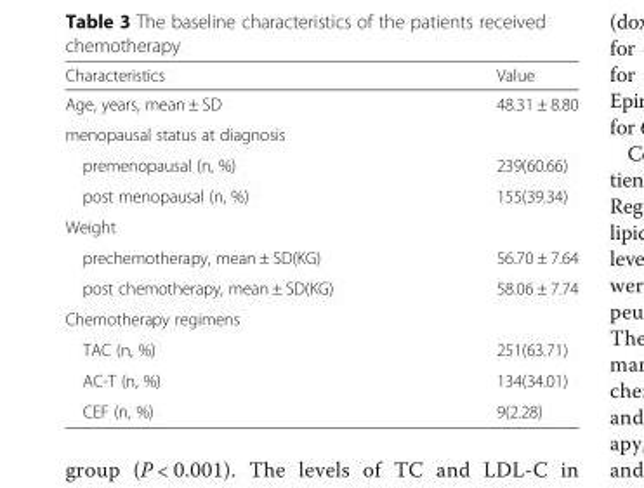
<table><thead><tr><td>Characteristics</td><td>Value</td></tr></thead><tbody><tr><td>Age, years, mean ± SD</td><td>48.31 ± 8.80</td></tr><tr><td colspan="2">menopausal status at diagnosis</td></tr><tr><td>premenopausal (n, %)</td><td>239(60.66)</td></tr><tr><td>post menopausal (n, %)</td><td>155(39.34)</td></tr><tr><td colspan="2">Weight</td></tr><tr><td>prechemotherapy, mean ± SD(KG)</td><td>56.70 ± 7.64</td></tr><tr><td>post chemotherapy, mean ± SD(KG)</td><td>58.06 ± 7.74</td></tr><tr><td colspan="2">Chemotherapy regimens</td></tr><tr><td>TAC (n, %)</td><td>251(63.71)</td></tr><tr><td>AC-T (n, %)</td><td>134(34.01)</td></tr><tr><td>CEF (n, %)</td><td>9(2.28)</td></tr></tbody></table>